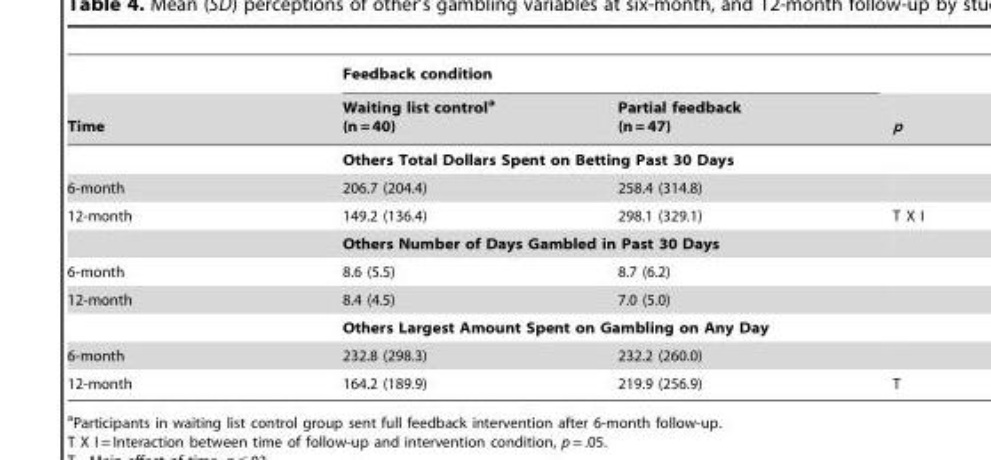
<table><thead><tr><td rowspan="2">Time</td><td colspan="2">Feedback condition</td><td rowspan="2">p</td></tr><tr><td>Waiting list control<sup>a</sup> (n = 40)</td><td>Partial feedback (n = 47)</td></tr></thead><tbody><tr><td></td><td colspan="2">Others Total Dollars Spent on Betting Past 30 Days</td><td></td></tr><tr><td>6-month</td><td>206.7 (204.4)</td><td>258.4 (314.8)</td><td></td></tr><tr><td rowspan="2">12-month</td><td>149.2 (136.4)</td><td>298.1 (329.1)</td><td>T X I</td></tr><tr><td colspan="2">Others Number of Days Gambled in Past 30 Days</td><td></td></tr><tr><td>6-month</td><td>8.6 (5.5)</td><td>8.7 (6.2)</td><td></td></tr><tr><td rowspan="2">12-month</td><td>8.4 (4.5)</td><td>7.0 (5.0)</td><td></td></tr><tr><td colspan="2">Others Largest Amount Spent on Gambling on Any Day</td><td></td></tr><tr><td>6-month</td><td>232.8 (298.3)</td><td>232.2 (260.0)</td><td></td></tr><tr><td>12-month</td><td>164.2 (189.9)</td><td>219.9 (256.9)</td><td>T</td></tr></tbody></table>